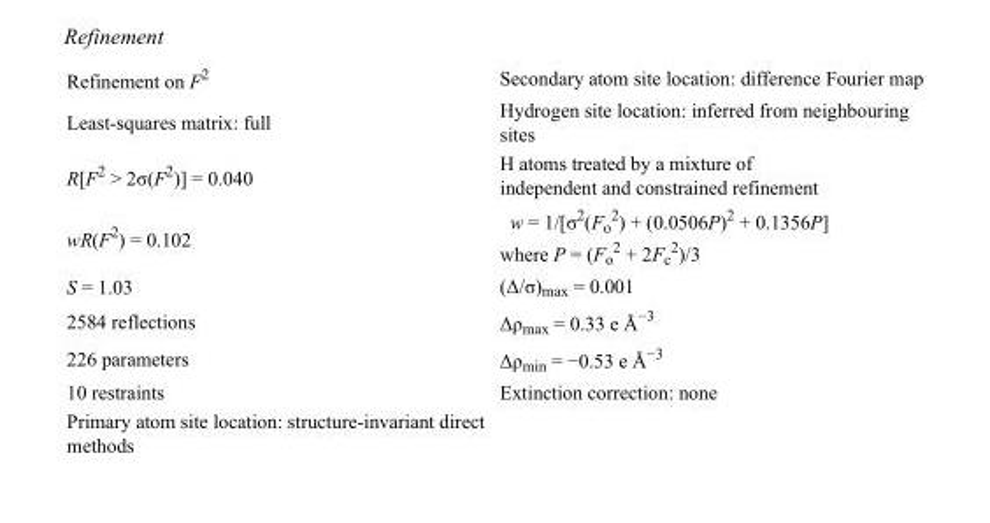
<table><tbody><tr><td>Refinement on F<sup>2</sup></td><td>Secondary atom site location: difference Fourier map</td></tr><tr><td>Least-squares matrix: full</td><td>Hydrogen site location: inferred from neighbouring sites</td></tr><tr><td>R[F<sup>2</sup> &gt; 2σ(F<sup>2</sup>)] = 0.040</td><td>H atoms treated by a mixture of independent and constrained refinement</td></tr><tr><td>wR(F<sup>2</sup>) = 0.102</td><td>w = 1/[σ<sup>2</sup>(F<sub>o</sub> <sup>2</sup>) + (0.0506P)<sup>2</sup> + 0.1356P] where P = (F<sub>o</sub> <sup>2</sup> + 2F<sub>c</sub> <sup>2</sup>)/3</td></tr><tr><td>S = 1.03</td><td>(Δ/σ)<sub>max</sub> = 0.001</td></tr><tr><td>2584 reflections</td><td>Δρ<sub>max</sub> = 0.33 e Å<sup>−3</sup></td></tr><tr><td>226 parameters</td><td>Δρ<sub>min</sub> = −0.53 e Å<sup>−3</sup></td></tr><tr><td>10 restraints</td><td>Extinction correction: none</td></tr><tr><td>Primary atom site location: structure-invariant direct methods</td><td></td></tr></tbody></table>